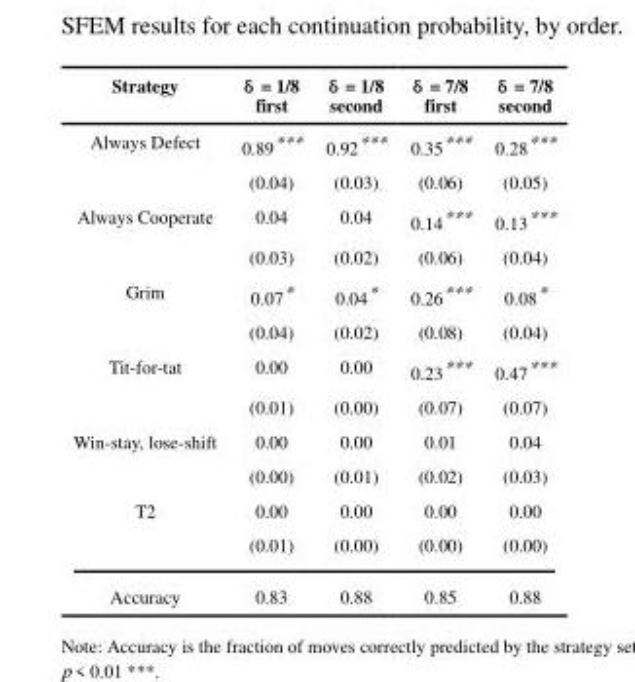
<table><thead><tr><td>Strategy</td><td>δ = 1/8 first</td><td>δ = 1/8 second</td><td>δ = 7/8 first</td><td>δ = 7/8 second</td></tr></thead><tbody><tr><td rowspan="2">Always Defect</td><td>0.89***</td><td>0.92***</td><td>0.35***</td><td>0.28***</td></tr><tr><td>(0.04)</td><td>(0.03)</td><td>(0.06)</td><td>(0.05)</td></tr><tr><td rowspan="2">Always Cooperate</td><td>0.04</td><td>0.04</td><td>0.14***</td><td>0.13***</td></tr><tr><td>(0.03)</td><td>(0.02)</td><td>(0.06)</td><td>(0.04)</td></tr><tr><td rowspan="2">Grim</td><td>0.07*</td><td>0.04*</td><td>0.26***</td><td>0.08*</td></tr><tr><td>(0.04)</td><td>(0.02)</td><td>(0.08)</td><td>(0.04)</td></tr><tr><td rowspan="2">Tit-for-tat</td><td>0.00</td><td>0.00</td><td>0.23***</td><td>0.47***</td></tr><tr><td>(0.01)</td><td>(0.00)</td><td>(0.07)</td><td>(0.07)</td></tr><tr><td rowspan="2">Win-stay, lose-shift</td><td>0.00</td><td>0.00</td><td>0.01</td><td>0.04</td></tr><tr><td>(0.00)</td><td>(0.01)</td><td>(0.02)</td><td>(0.03)</td></tr><tr><td rowspan="2">T2</td><td>0.00</td><td>0.00</td><td>0.00</td><td>0.00</td></tr><tr><td>(0.01)</td><td>(0.00)</td><td>(0.00)</td><td>(0.00)</td></tr><tr><td>Accuracy</td><td>0.83</td><td>0.88</td><td>0.85</td><td>0.88</td></tr></tbody></table>